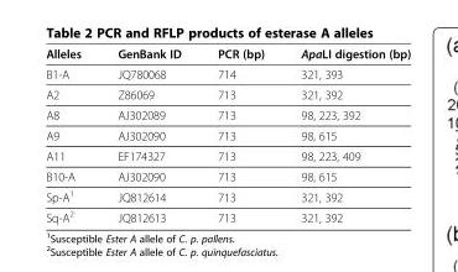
<table><thead><tr><td>Alleles</td><td>GenBank ID</td><td>PCR (bp)</td><td>ApaLI digestion (bp)</td></tr></thead><tbody><tr><td>B1-A</td><td>JQ780068</td><td>714</td><td>321, 393</td></tr><tr><td>A2</td><td>Z86069</td><td>713</td><td>321, 392</td></tr><tr><td>A8</td><td>AJ302089</td><td>713</td><td>98, 223, 392</td></tr><tr><td>A9</td><td>AJ302090</td><td>713</td><td>98, 615</td></tr><tr><td>A11</td><td>EF174327</td><td>713</td><td>98, 223, 409</td></tr><tr><td>B10-A</td><td>AJ302090</td><td>713</td><td>98, 615</td></tr><tr><td>Sp-A<sup>1</sup></td><td>JQ812614</td><td>713</td><td>321, 392</td></tr><tr><td>Sq-A<sup>2</sup></td><td>JQ812613</td><td>713</td><td>321, 392</td></tr></tbody></table>